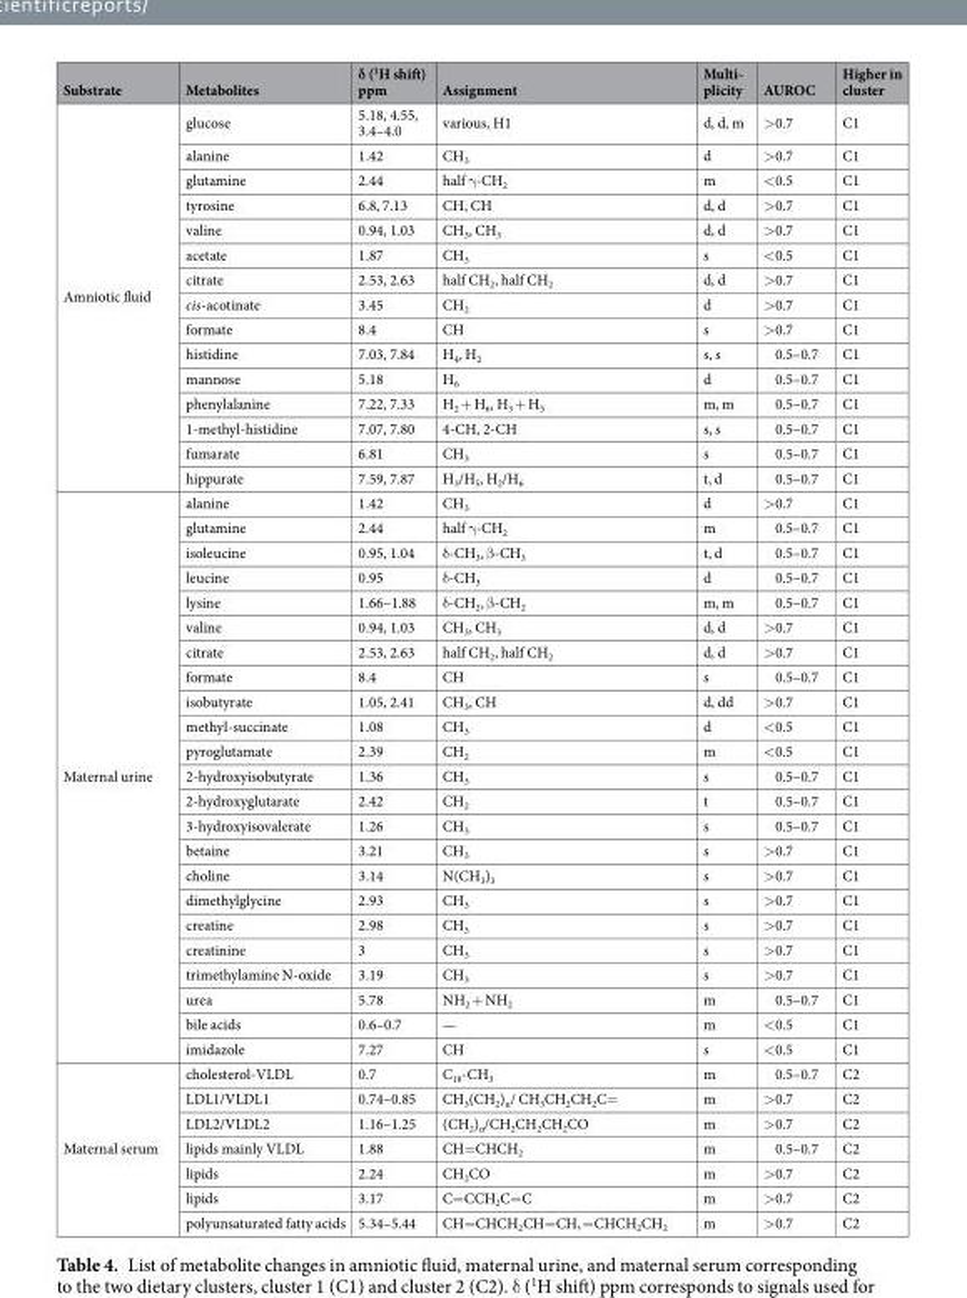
<table><thead><tr><td>Substrate</td><td>Metabolites</td><td>δ (<sup>1</sup>H shift) ppm</td><td>Assignment</td><td>Multi- plicity</td><td>AUROC</td><td>Higher in cluster</td></tr></thead><tbody><tr><td rowspan="15">Amniotic fluid</td><td>glucose</td><td>5.18, 4.55, 3.4–4.0</td><td>various, H1</td><td>d, d, m</td><td>&gt;0.7</td><td>C1</td></tr><tr><td>alanine</td><td>1.42</td><td>CH<sub>3</sub></td><td>d</td><td>&gt;0.7</td><td>C1</td></tr><tr><td>glutamine</td><td>2.44</td><td>half γ-CH<sub>2</sub></td><td>m</td><td>&lt;0.5</td><td>C1</td></tr><tr><td>tyrosine</td><td>6.8, 7.13</td><td>CH, CH</td><td>d, d</td><td>&gt;0.7</td><td>C1</td></tr><tr><td>valine</td><td>0.94, 1.03</td><td>CH<sub>3</sub>, CH<sub>3</sub></td><td>d, d</td><td>&gt;0.7</td><td>C1</td></tr><tr><td>acetate</td><td>1.87</td><td>CH<sub>3</sub></td><td>s</td><td>&lt;0.5</td><td>C1</td></tr><tr><td>citrate</td><td>2.53, 2.63</td><td>half CH<sub>2</sub>, half CH<sub>2</sub></td><td>d, d</td><td>&gt;0.7</td><td>C1</td></tr><tr><td>cis-acotinate</td><td>3.45</td><td>CH<sub>2</sub></td><td>d</td><td>&gt;0.7</td><td>C1</td></tr><tr><td>formate</td><td>8.4</td><td>CH</td><td>s</td><td>&gt;0.7</td><td>C1</td></tr><tr><td>histidine</td><td>7.03, 7.84</td><td>H<sub>4</sub>, H<sub>2</sub></td><td>s, s</td><td>0.5–0.7</td><td>C1</td></tr><tr><td>mannose</td><td>5.18</td><td>H<sub>6</sub></td><td>d</td><td>0.5–0.7</td><td>C1</td></tr><tr><td>phenylalanine</td><td>7.22, 7.33</td><td>H<sub>2</sub> + H<sub>6</sub>, H<sub>3</sub> + H<sub>5</sub></td><td>m, m</td><td>0.5–0.7</td><td>C1</td></tr><tr><td>1-methyl-histidine</td><td>7.07, 7.80</td><td>4-CH, 2-CH</td><td>s, s</td><td>0.5–0.7</td><td>C1</td></tr><tr><td>fumarate</td><td>6.81</td><td>CH<sub>3</sub></td><td>s</td><td>0.5–0.7</td><td>C1</td></tr><tr><td>hippurate</td><td>7.59, 7.87</td><td>H<sub>3</sub>/H<sub>5</sub>, H<sub>2</sub>/H<sub>6</sub></td><td>t, d</td><td>0.5–0.7</td><td>C1</td></tr><tr><td rowspan="23">Maternal urine</td><td>alanine</td><td>1.42</td><td>CH<sub>3</sub></td><td>d</td><td>&gt;0.7</td><td>C1</td></tr><tr><td>glutamine</td><td>2.44</td><td>half γ-CH<sub>2</sub></td><td>m</td><td>0.5–0.7</td><td>C1</td></tr><tr><td>isoleucine</td><td>0.95, 1.04</td><td>δ-CH<sub>3</sub>, β-CH<sub>3</sub></td><td>t, d</td><td>0.5–0.7</td><td>C1</td></tr><tr><td>leucine</td><td>0.95</td><td>δ-CH<sub>3</sub></td><td>d</td><td>0.5–0.7</td><td>C1</td></tr><tr><td>lysine</td><td>1.66–1.88</td><td>δ-CH<sub>2</sub>, β-CH<sub>2</sub></td><td>m, m</td><td>0.5–0.7</td><td>C1</td></tr><tr><td>valine</td><td>0.94, 1.03</td><td>CH<sub>3</sub>, CH<sub>3</sub></td><td>d, d</td><td>&gt;0.7</td><td>C1</td></tr><tr><td>citrate</td><td>2.53, 2.63</td><td>half CH<sub>2</sub>, half CH<sub>2</sub></td><td>d, d</td><td>&gt;0.7</td><td>C1</td></tr><tr><td>formate</td><td>8.4</td><td>CH</td><td>s</td><td>0.5–0.7</td><td>C1</td></tr><tr><td>isobutyrate</td><td>1.05, 2.41</td><td>CH<sub>3</sub>, CH</td><td>d, dd</td><td>&gt;0.7</td><td>C1</td></tr><tr><td>methyl-succinate</td><td>1.08</td><td>CH<sub>3</sub></td><td>d</td><td>&lt;0.5</td><td>C1</td></tr><tr><td>pyroglutamate</td><td>2.39</td><td>CH<sub>2</sub></td><td>m</td><td>&lt;0.5</td><td>C1</td></tr><tr><td>2-hydroxyisobutyrate</td><td>1.36</td><td>CH<sub>3</sub></td><td>s</td><td>0.5–0.7</td><td>C1</td></tr><tr><td>2-hydroxyglutarate</td><td>2.42</td><td>CH<sub>2</sub></td><td>t</td><td>0.5–0.7</td><td>C1</td></tr><tr><td>3-hydroxyisovalerate</td><td>1.26</td><td>CH<sub>3</sub></td><td>s</td><td>0.5–0.7</td><td>C1</td></tr><tr><td>betaine</td><td>3.21</td><td>CH<sub>3</sub></td><td>s</td><td>&gt;0.7</td><td>C1</td></tr><tr><td>choline</td><td>3.14</td><td>N(CH<sub>3</sub>)<sub>3</sub></td><td>s</td><td>&gt;0.7</td><td>C1</td></tr><tr><td>dimethylglycine</td><td>2.93</td><td>CH<sub>3</sub></td><td>s</td><td>&gt;0.7</td><td>C1</td></tr><tr><td>creatine</td><td>2.98</td><td>CH<sub>3</sub></td><td>s</td><td>&gt;0.7</td><td>C1</td></tr><tr><td>creatinine</td><td>3</td><td>CH<sub>3</sub></td><td>s</td><td>&gt;0.7</td><td>C1</td></tr><tr><td>trimethylamine N-oxide</td><td>3.19</td><td>CH<sub>3</sub></td><td>s</td><td>&gt;0.7</td><td>C1</td></tr><tr><td>urea</td><td>5.78</td><td>NH<sub>2</sub> + NH<sub>2</sub></td><td>m</td><td>0.5–0.7</td><td>C1</td></tr><tr><td>bile acids</td><td>0.6–0.7</td><td>—</td><td>m</td><td>&lt;0.5</td><td>C1</td></tr><tr><td>imidazole</td><td>7.27</td><td>CH</td><td>s</td><td>&lt;0.5</td><td>C1</td></tr><tr><td rowspan="7">Maternal serum</td><td>cholesterol-VLDL</td><td>0.7</td><td>C<sub>18</sub>-CH<sub>3</sub></td><td>m</td><td>0.5–0.7</td><td>C2</td></tr><tr><td>LDL1/VLDL1</td><td>0.74–0.85</td><td>CH<sub>3</sub>(CH<sub>2</sub>)<sub>n</sub>/ CH<sub>3</sub>CH<sub>2</sub>CH<sub>2</sub>C=</td><td>m</td><td>&gt;0.7</td><td>C2</td></tr><tr><td>LDL2/VLDL2</td><td>1.16–1.25</td><td>(CH<sub>2</sub>)<sub>n</sub>/CH<sub>2</sub>CH<sub>2</sub>CH<sub>2</sub>CO</td><td>m</td><td>&gt;0.7</td><td>C2</td></tr><tr><td>lipids mainly VLDL</td><td>1.88</td><td>CH=CHCH<sub>2</sub></td><td>m</td><td>0.5–0.7</td><td>C2</td></tr><tr><td>lipids</td><td>2.24</td><td>CH<sub>2</sub>CO</td><td>m</td><td>&gt;0.7</td><td>C2</td></tr><tr><td>lipids</td><td>3.17</td><td>C=CCH<sub>2</sub>C=C</td><td>m</td><td>&gt;0.7</td><td>C2</td></tr><tr><td>polyunsaturated fatty acids</td><td>5.34–5.44</td><td>CH=CHCH<sub>2</sub>CH=CH, =CHCH<sub>2</sub>CH<sub>2</sub></td><td>m</td><td>&gt;0.7</td><td>C2</td></tr></tbody></table>